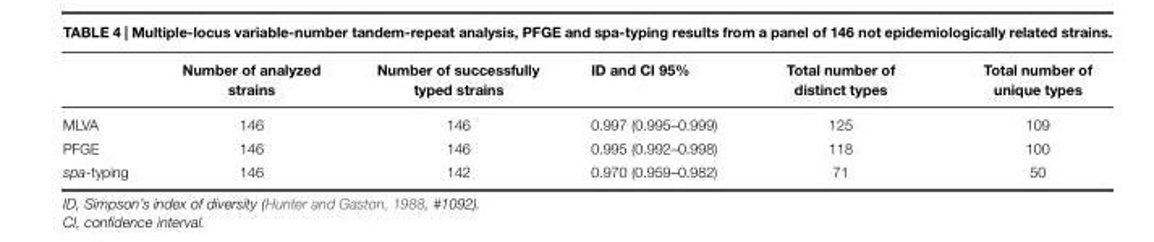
<table><thead><tr><td></td><td>Number of analyzed strains</td><td>Number of successfully typed strains</td><td>ID and CI 95%</td><td>Total number of distinct types</td><td>Total number of unique types</td></tr></thead><tbody><tr><td>MLVA</td><td>146</td><td>146</td><td>0.997 (0.995–0.999)</td><td>125</td><td>109</td></tr><tr><td>PFGE</td><td>146</td><td>146</td><td>0.995 (0.992–0.998)</td><td>118</td><td>100</td></tr><tr><td>spa-typing</td><td>146</td><td>142</td><td>0.970 (0.959–0.982)</td><td>71</td><td>50</td></tr></tbody></table>